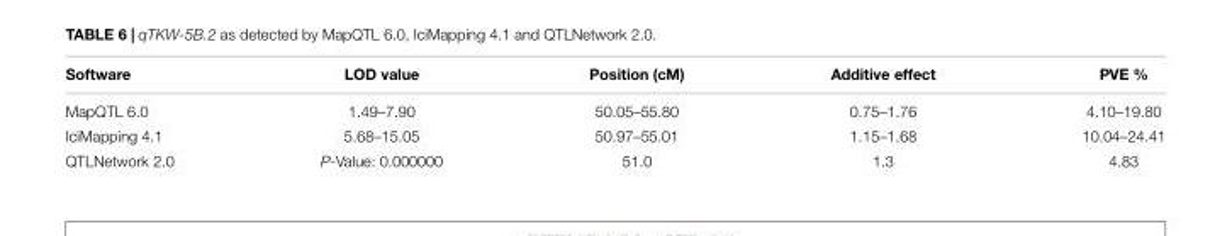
<table><thead><tr><td>Software</td><td>LOD value</td><td>Position (cM)</td><td>Additive effect</td><td>PVE %</td></tr></thead><tbody><tr><td>MapQTL 6.0</td><td>1.49–7.90</td><td>50.05–55.80</td><td>0.75–1.76</td><td>4.10–19.80</td></tr><tr><td>IciMapping 4.1</td><td>5.68–15.05</td><td>50.97–55.01</td><td>1.15–1.68</td><td>10.04–24.41</td></tr><tr><td>QTLNetwork 2.0</td><td>P-Value: 0.000000</td><td>51.0</td><td>1.3</td><td>4.83</td></tr></tbody></table>